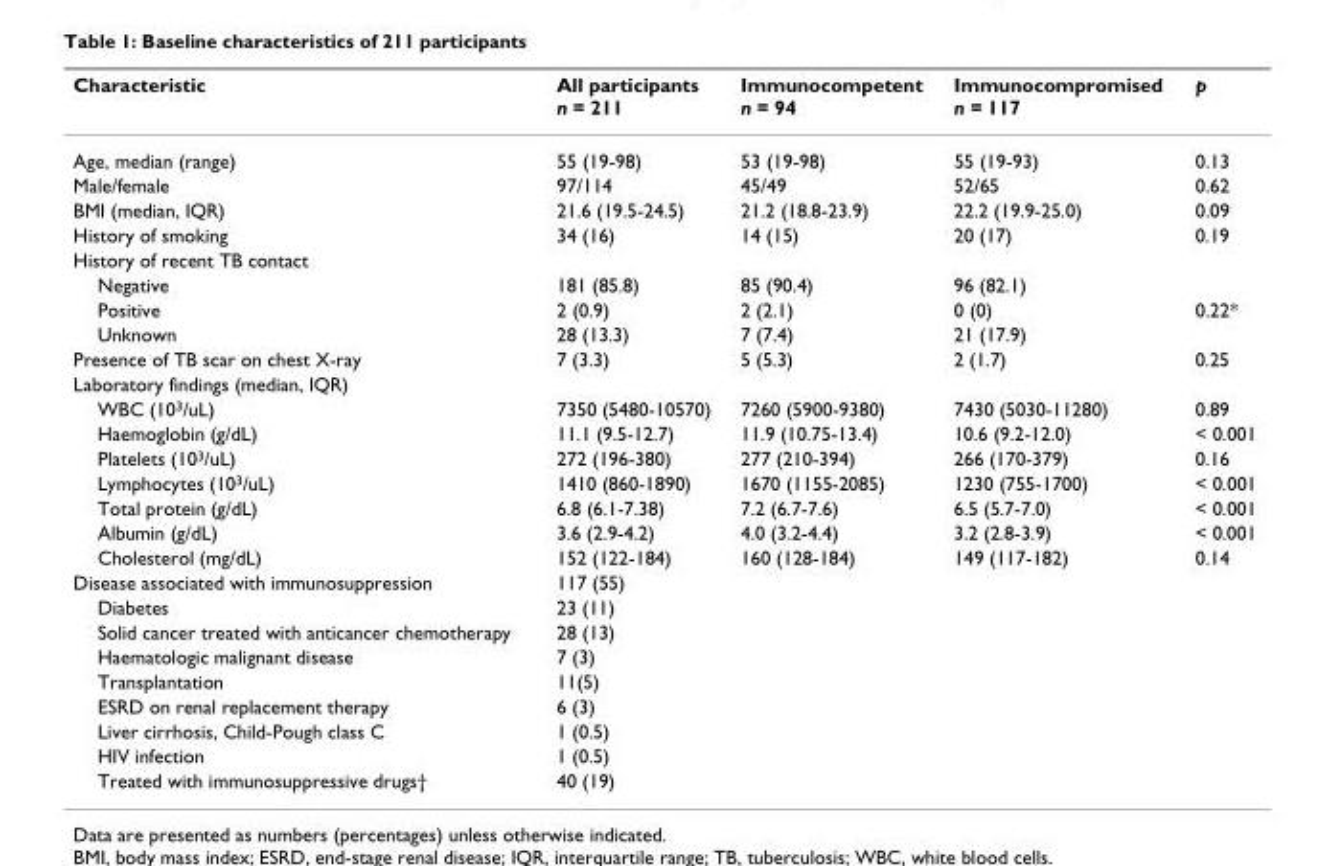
<table><thead><tr><td>Characteristic</td><td>All participants n = 211</td><td>Immunocompetent n = 94</td><td>Immunocompromised n = 117</td><td>p</td></tr></thead><tbody><tr><td>Age, median (range)</td><td>55 (19-98)</td><td>53 (19-98)</td><td>55 (19-93)</td><td>0.13</td></tr><tr><td>Male/female</td><td>97/114</td><td>45/49</td><td>52/65</td><td>0.62</td></tr><tr><td>BMI (median, IQR)</td><td>21.6 (19.5-24.5)</td><td>21.2 (18.8-23.9)</td><td>22.2 (19.9-25.0)</td><td>0.09</td></tr><tr><td>History of smoking</td><td>34 (16)</td><td>14 (15)</td><td>20 (17)</td><td>0.19</td></tr><tr><td colspan="5">History of recent TB contact</td></tr><tr><td>Negative</td><td>181 (85.8)</td><td>85 (90.4)</td><td>96 (82.1)</td><td></td></tr><tr><td>Positive</td><td>2 (0.9)</td><td>2 (2.1)</td><td>0 (0)</td><td>0.22*</td></tr><tr><td>Unknown</td><td>28 (13.3)</td><td>7 (7.4)</td><td>21 (17.9)</td><td></td></tr><tr><td>Presence of TB scar on chest X-ray</td><td>7 (3.3)</td><td>5 (5.3)</td><td>2 (1.7)</td><td>0.25</td></tr><tr><td colspan="5">Laboratory findings (median, IQR)</td></tr><tr><td>WBC (10<sup>3</sup>/uL)</td><td>7350 (5480-10570)</td><td>7260 (5900-9380)</td><td>7430 (5030-11280)</td><td>0.89</td></tr><tr><td>Haemoglobin (g/dL)</td><td>11.1 (9.5-12.7)</td><td>11.9 (10.75-13.4)</td><td>10.6 (9.2-12.0)</td><td>&lt; 0.001</td></tr><tr><td>Platelets (10<sup>3</sup>/uL)</td><td>272 (196-380)</td><td>277 (210-394)</td><td>266 (170-379)</td><td>0.16</td></tr><tr><td>Lymphocytes (10<sup>3</sup>/uL)</td><td>1410 (860-1890)</td><td>1670 (1155-2085)</td><td>1230 (755-1700)</td><td>&lt; 0.001</td></tr><tr><td>Total protein (g/dL)</td><td>6.8 (6.1-7.38)</td><td>7.2 (6.7-7.6)</td><td>6.5 (5.7-7.0)</td><td>&lt; 0.001</td></tr><tr><td>Albumin (g/dL)</td><td>3.6 (2.9-4.2)</td><td>4.0 (3.2-4.4)</td><td>3.2 (2.8-3.9)</td><td>&lt; 0.001</td></tr><tr><td>Cholesterol (mg/dL)</td><td>152 (122-184)</td><td>160 (128-184)</td><td>149 (117-182)</td><td>0.14</td></tr><tr><td>Disease associated with immunosuppression</td><td>117 (55)</td><td></td><td></td><td></td></tr><tr><td>Diabetes</td><td>23 (11)</td><td></td><td></td><td></td></tr><tr><td>Solid cancer treated with anticancer chemotherapy</td><td>28 (13)</td><td></td><td></td><td></td></tr><tr><td>Haematologic malignant disease</td><td>7 (3)</td><td></td><td></td><td></td></tr><tr><td>Transplantation</td><td>11(5)</td><td></td><td></td><td></td></tr><tr><td>ESRD on renal replacement therapy</td><td>6 (3)</td><td></td><td></td><td></td></tr><tr><td>Liver cirrhosis, Child-Pough class C</td><td>1 (0.5)</td><td></td><td></td><td></td></tr><tr><td>HIV infection</td><td>1 (0.5)</td><td></td><td></td><td></td></tr><tr><td>Treated with immunosuppressive drugs†</td><td>40 (19)</td><td></td><td></td><td></td></tr></tbody></table>